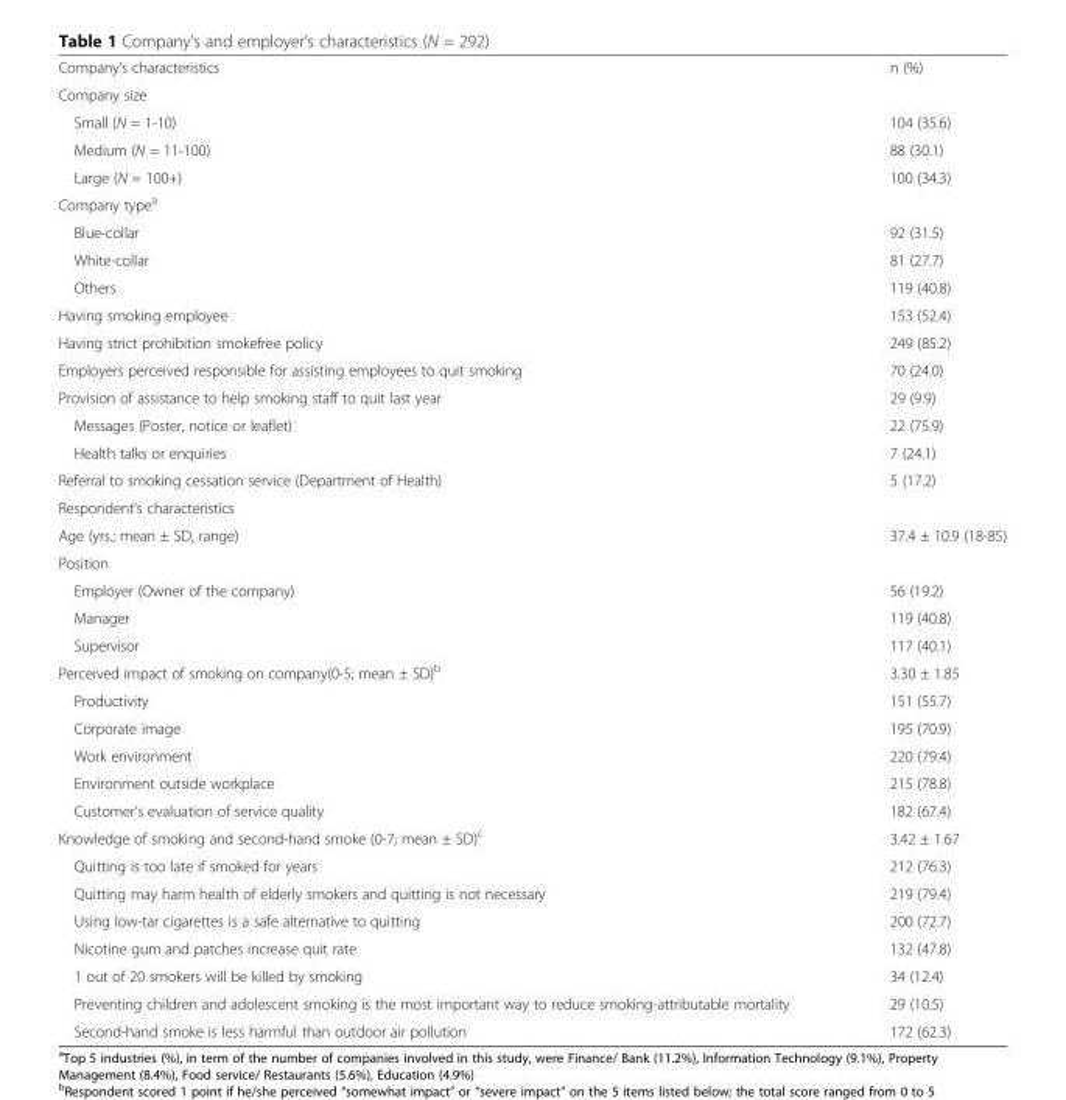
<table><tbody><tr><td>Company’s characteristics</td><td>n (%)</td></tr><tr><td colspan="2">Company size</td></tr><tr><td>Small (N = 1-10)</td><td>104 (35.6)</td></tr><tr><td>Medium (N = 11-100)</td><td>88 (30.1)</td></tr><tr><td>Large (N = 100+)</td><td>100 (34.3)</td></tr><tr><td colspan="2">Company type<sup>a</sup></td></tr><tr><td>Blue-collar</td><td>92 (31.5)</td></tr><tr><td>White-collar</td><td>81 (27.7)</td></tr><tr><td>Others</td><td>119 (40.8)</td></tr><tr><td>Having smoking employee</td><td>153 (52.4)</td></tr><tr><td>Having strict prohibition smokefree policy</td><td>249 (85.2)</td></tr><tr><td>Employers perceived responsible for assisting employees to quit smoking</td><td>70 (24.0)</td></tr><tr><td>Provision of assistance to help smoking staff to quit last year</td><td>29 (9.9)</td></tr><tr><td>Messages (Poster, notice or leaflet)</td><td>22 (75.9)</td></tr><tr><td>Health talks or enquiries</td><td>7 (24.1)</td></tr><tr><td>Referral to smoking cessation service (Department of Health)</td><td>5 (17.2)</td></tr><tr><td colspan="2">Respondent’s characteristics</td></tr><tr><td>Age (yrs.; mean ± SD, range)</td><td>37.4 ± 10.9 (18-85)</td></tr><tr><td colspan="2">Position</td></tr><tr><td>Employer (Owner of the company)</td><td>56 (19.2)</td></tr><tr><td>Manager</td><td>119 (40.8)</td></tr><tr><td>Supervisor</td><td>117 (40.1)</td></tr><tr><td>Perceived impact of smoking on company(0-5; mean ± SD)<sup>b</sup></td><td>3.30 ± 1.85</td></tr><tr><td>Productivity</td><td>151 (55.7)</td></tr><tr><td>Corporate image</td><td>195 (70.9)</td></tr><tr><td>Work environment</td><td>220 (79.4)</td></tr><tr><td>Environment outside workplace</td><td>215 (78.8)</td></tr><tr><td>Customer’s evaluation of service quality</td><td>182 (67.4)</td></tr><tr><td>Knowledge of smoking and second-hand smoke (0-7; mean ± SD)<sup>c</sup></td><td>3.42 ± 1.67</td></tr><tr><td>Quitting is too late if smoked for years</td><td>212 (76.3)</td></tr><tr><td>Quitting may harm health of elderly smokers and quitting is not necessary</td><td>219 (79.4)</td></tr><tr><td>Using low-tar cigarettes is a safe alternative to quitting</td><td>200 (72.7)</td></tr><tr><td>Nicotine gum and patches increase quit rate</td><td>132 (47.8)</td></tr><tr><td>1 out of 20 smokers will be killed by smoking</td><td>34 (12.4)</td></tr><tr><td>Preventing children and adolescent smoking is the most important way to reduce smoking-attributable mortality</td><td>29 (10.5)</td></tr><tr><td>Second-hand smoke is less harmful than outdoor air pollution</td><td>172 (62.3)</td></tr></tbody></table>